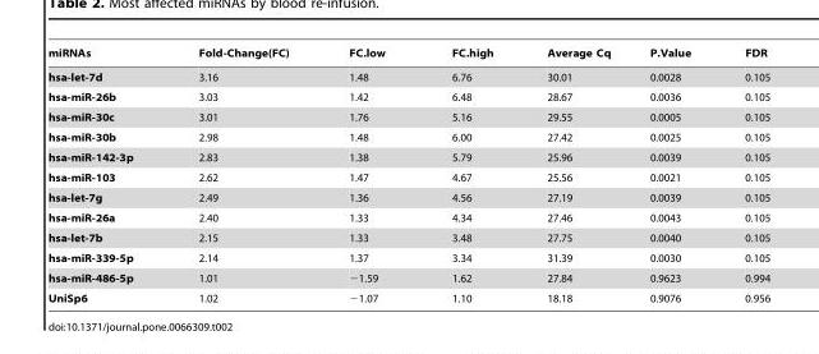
<table><thead><tr><td>miRNAs</td><td>Fold-Change(FC)</td><td>FC.low</td><td>FC.high</td><td>Average Cq</td><td>P.Value</td><td>FDR</td></tr></thead><tbody><tr><td>hsa-let-7d</td><td>3.16</td><td>1.48</td><td>6.76</td><td>30.01</td><td>0.0028</td><td>0.105</td></tr><tr><td>hsa-miR-26b</td><td>3.03</td><td>1.42</td><td>6.48</td><td>28.67</td><td>0.0036</td><td>0.105</td></tr><tr><td>hsa-miR-30c</td><td>3.01</td><td>1.76</td><td>5.16</td><td>29.55</td><td>0.0005</td><td>0.105</td></tr><tr><td>hsa-miR-30b</td><td>2.98</td><td>1.48</td><td>6.00</td><td>27.42</td><td>0.0025</td><td>0.105</td></tr><tr><td>hsa-miR-142-3p</td><td>2.83</td><td>1.38</td><td>5.79</td><td>25.96</td><td>0.0039</td><td>0.105</td></tr><tr><td>hsa-miR-103</td><td>2.62</td><td>1.47</td><td>4.67</td><td>25.56</td><td>0.0021</td><td>0.105</td></tr><tr><td>hsa-let-7g</td><td>2.49</td><td>1.36</td><td>4.56</td><td>27.19</td><td>0.0039</td><td>0.105</td></tr><tr><td>hsa-miR-26a</td><td>2.40</td><td>1.33</td><td>4.34</td><td>27.46</td><td>0.0043</td><td>0.105</td></tr><tr><td>hsa-let-7b</td><td>2.15</td><td>1.33</td><td>3.48</td><td>27.75</td><td>0.0040</td><td>0.105</td></tr><tr><td>hsa-miR-339-5p</td><td>2.14</td><td>1.37</td><td>3.34</td><td>31.39</td><td>0.0030</td><td>0.105</td></tr><tr><td>hsa-miR-486-5p</td><td>1.01</td><td>−1.59</td><td>1.62</td><td>27.84</td><td>0.9623</td><td>0.994</td></tr><tr><td>UniSp6</td><td>1.02</td><td>−1.07</td><td>1.10</td><td>18.18</td><td>0.9076</td><td>0.956</td></tr></tbody></table>